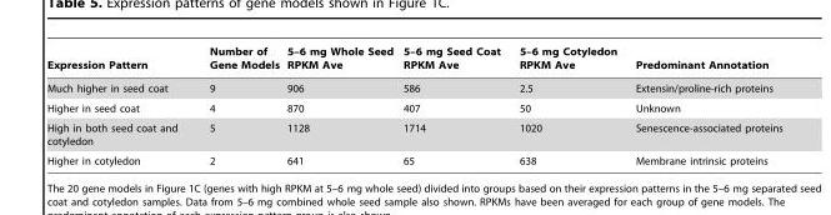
<table><thead><tr><td>Expression Pattern</td><td>Number of Gene Models</td><td>5–6 mg Whole Seed RPKM Ave</td><td>5–6 mg Seed Coat RPKM Ave</td><td>5–6 mg Cotyledon RPKM Ave</td><td>Predominant Annotation</td></tr></thead><tbody><tr><td>Much higher in seed coat</td><td>9</td><td>906</td><td>586</td><td>2.5</td><td>Extensin/proline-rich proteins</td></tr><tr><td>Higher in seed coat</td><td>4</td><td>870</td><td>407</td><td>50</td><td>Unknown</td></tr><tr><td>High in both seed coat and cotyledon</td><td>5</td><td>1128</td><td>1714</td><td>1020</td><td>Senescence-associated proteins</td></tr><tr><td>Higher in cotyledon</td><td>2</td><td>641</td><td>65</td><td>638</td><td>Membrane intrinsic proteins</td></tr></tbody></table>